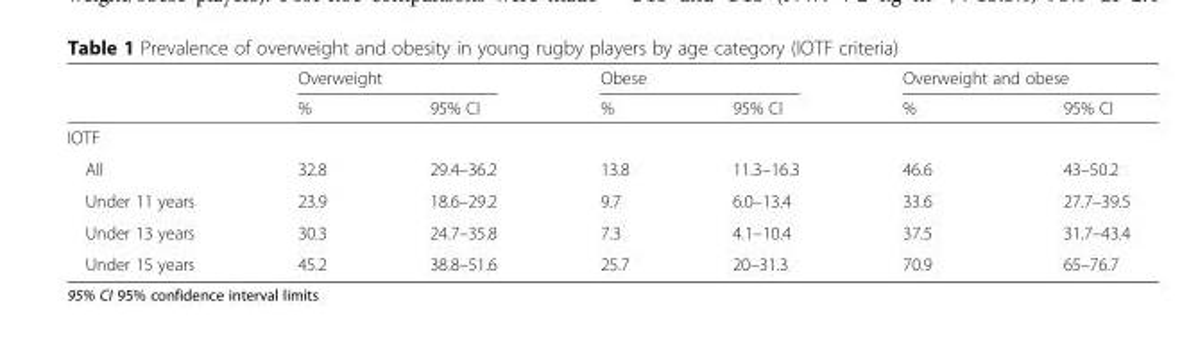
<table><thead><tr><td rowspan="2"></td><td colspan="2">Overweight</td><td colspan="2">Obese</td><td colspan="2">Overweight and obese</td></tr><tr><td>%</td><td>95% CI</td><td>%</td><td>95% CI</td><td>%</td><td>95% CI</td></tr></thead><tbody><tr><td colspan="7">IOTF</td></tr><tr><td>All</td><td>32.8</td><td>29.4–36.2</td><td>13.8</td><td>11.3–16.3</td><td>46.6</td><td>43–50.2</td></tr><tr><td>Under 11 years</td><td>23.9</td><td>18.6–29.2</td><td>9.7</td><td>6.0–13.4</td><td>33.6</td><td>27.7–39.5</td></tr><tr><td>Under 13 years</td><td>30.3</td><td>24.7–35.8</td><td>7.3</td><td>4.1–10.4</td><td>37.5</td><td>31.7–43.4</td></tr><tr><td>Under 15 years</td><td>45.2</td><td>38.8–51.6</td><td>25.7</td><td>20–31.3</td><td>70.9</td><td>65–76.7</td></tr></tbody></table>